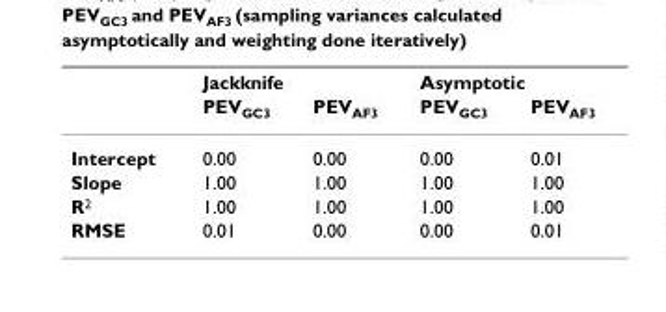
<table><thead><tr><td rowspan="2"></td><td colspan="2">Jackknife</td><td colspan="2">Asymptotic</td></tr><tr><td>PEV<sub>GC3</sub></td><td>PEV<sub>AF3</sub></td><td>PEV<sub>GC3</sub></td><td>PEV<sub>AF3</sub></td></tr></thead><tbody><tr><td>Intercept</td><td>0.00</td><td>0.00</td><td>0.00</td><td>0.01</td></tr><tr><td>Slope</td><td>1.00</td><td>1.00</td><td>1.00</td><td>1.00</td></tr><tr><td>R<sup>2</sup></td><td>1.00</td><td>1.00</td><td>1.00</td><td>1.00</td></tr><tr><td>RMSE</td><td>0.01</td><td>0.00</td><td>0.00</td><td>0.01</td></tr></tbody></table>